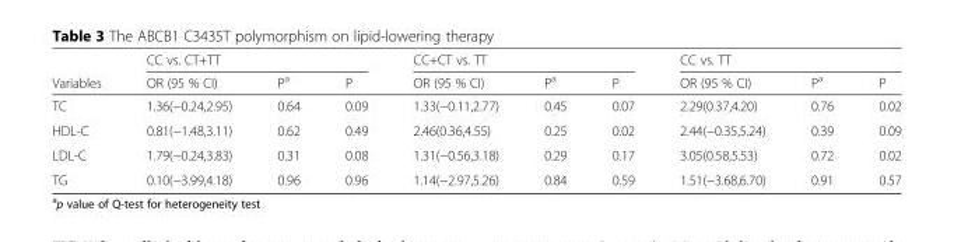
<table><thead><tr><td rowspan="2">Variables</td><td colspan="3">CC vs. CT+TT</td><td colspan="3">CC+CT vs. TT</td><td colspan="3">CC vs. TT</td></tr><tr><td>OR (95 % CI)</td><td>P<sup>a</sup></td><td>P</td><td>OR (95 % CI)</td><td>P<sup>a</sup></td><td>P</td><td>OR (95 % CI)</td><td>P<sup>a</sup></td><td>P</td></tr></thead><tbody><tr><td>TC</td><td>1.36(−0.24,2.95)</td><td>0.64</td><td>0.09</td><td>1.33(−0.11,2.77)</td><td>0.45</td><td>0.07</td><td>2.29(0.37,4.20)</td><td>0.76</td><td>0.02</td></tr><tr><td>HDL-C</td><td>0.81(−1.48,3.11)</td><td>0.62</td><td>0.49</td><td>2.46(0.36,4.55)</td><td>0.25</td><td>0.02</td><td>2.44(−0.35,5.24)</td><td>0.39</td><td>0.09</td></tr><tr><td>LDL-C</td><td>1.79(−0.24,3.83)</td><td>0.31</td><td>0.08</td><td>1.31(−0.56,3.18)</td><td>0.29</td><td>0.17</td><td>3.05(0.58,5.53)</td><td>0.72</td><td>0.02</td></tr><tr><td>TG</td><td>0.10(−3.99,4.18)</td><td>0.96</td><td>0.96</td><td>1.14(−2.97,5.26)</td><td>0.84</td><td>0.59</td><td>1.51(−3.68,6.70)</td><td>0.91</td><td>0.57</td></tr></tbody></table>